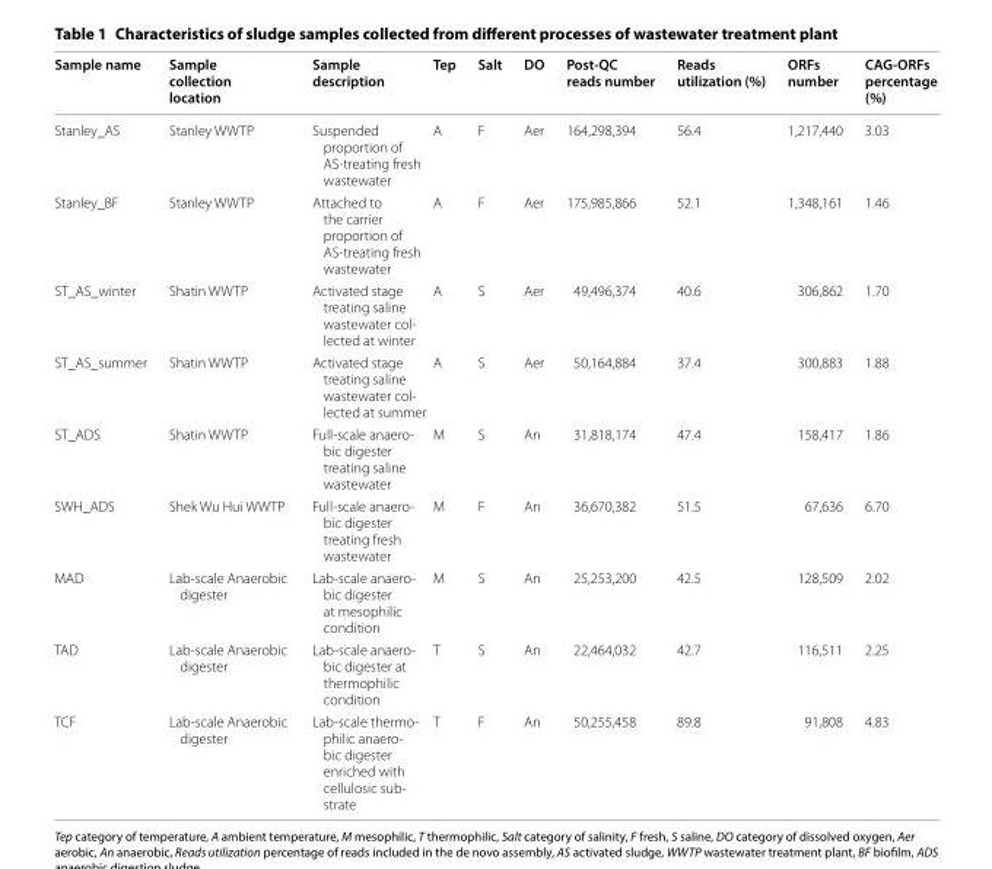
<table><thead><tr><td>Sample name</td><td>Sample collection location</td><td>Sample description</td><td>Tep</td><td>Salt</td><td>DO</td><td>Post‑QC reads number</td><td>Reads utilization (%)</td><td>ORFs number</td><td>CAG‑ORFs percentage (%)</td></tr></thead><tbody><tr><td>Stanley_AS</td><td>Stanley WWTP</td><td>Suspended proportion of AS-treating fresh wastewater</td><td>A</td><td>F</td><td>Aer</td><td>164,298,394</td><td>56.4</td><td>1,217,440</td><td>3.03</td></tr><tr><td>Stanley_BF</td><td>Stanley WWTP</td><td>Attached to the carrier proportion of AS-treating fresh wastewater</td><td>A</td><td>F</td><td>Aer</td><td>175,985,866</td><td>52.1</td><td>1,348,161</td><td>1.46</td></tr><tr><td>ST_AS_winter</td><td>Shatin WWTP</td><td>Activated stage treating saline wastewater col- lected at winter</td><td>A</td><td>S</td><td>Aer</td><td>49,496,374</td><td>40.6</td><td>306,862</td><td>1.70</td></tr><tr><td>ST_AS_summer</td><td>Shatin WWTP</td><td>Activated stage treating saline wastewater col- lected at summer</td><td>A</td><td>S</td><td>Aer</td><td>50,164,884</td><td>37.4</td><td>300,883</td><td>1.88</td></tr><tr><td>ST_ADS</td><td>Shatin WWTP</td><td>Full-scale anaero- bic digester treating saline wastewater</td><td>M</td><td>S</td><td>An</td><td>31,818,174</td><td>47.4</td><td>158,417</td><td>1.86</td></tr><tr><td>SWH_ADS</td><td>Shek Wu Hui WWTP</td><td>Full-scale anaero- bic digester treating fresh wastewater</td><td>M</td><td>F</td><td>An</td><td>36,670,382</td><td>51.5</td><td>67,636</td><td>6.70</td></tr><tr><td>MAD</td><td>Lab-scale Anaerobic digester</td><td>Lab-scale anaero- bic digester at mesophilic condition</td><td>M</td><td>S</td><td>An</td><td>25,253,200</td><td>42.5</td><td>128,509</td><td>2.02</td></tr><tr><td>TAD</td><td>Lab-scale Anaerobic digester</td><td>Lab-scale anaero- bic digester at thermophilic condition</td><td>T</td><td>S</td><td>An</td><td>22,464,032</td><td>42.7</td><td>116,511</td><td>2.25</td></tr><tr><td>TCF</td><td>Lab-scale Anaerobic digester</td><td>Lab-scale thermo- philic anaero- bic digester enriched with cellulosic sub- strate</td><td>T</td><td>F</td><td>An</td><td>50,255,458</td><td>89.8</td><td>91,808</td><td>4.83</td></tr></tbody></table>